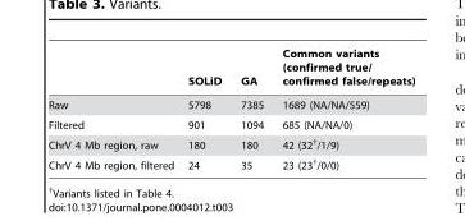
<table><thead><tr><td></td><td>SOLiD</td><td>GA</td><td>Common variants (confirmed true/ confirmed false/repeats)</td></tr></thead><tbody><tr><td>Raw</td><td>5798</td><td>7385</td><td>1689 (NA/NA/559)</td></tr><tr><td>Filtered</td><td>901</td><td>1094</td><td>685 (NA/NA/0)</td></tr><tr><td>ChrV 4 Mb region, raw</td><td>180</td><td>180</td><td>42 (32†/1/9)</td></tr><tr><td>ChrV 4 Mb region, filtered</td><td>24</td><td>35</td><td>23 (23†/0/0)</td></tr></tbody></table>